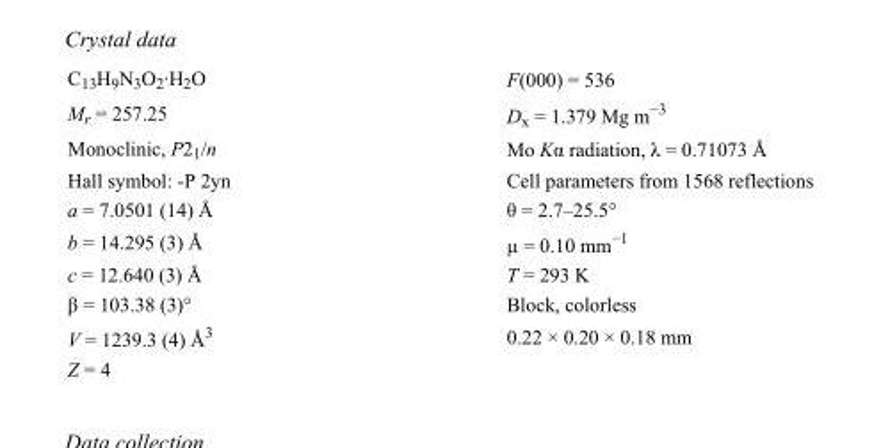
<table><tbody><tr><td>C<sub>13</sub>H<sub>9</sub>N<sub>3</sub>O<sub>2</sub>·H<sub>2</sub>O</td><td>F(000) = 536</td></tr><tr><td>M<sub>r</sub> = 257.25</td><td>D<sub>x</sub> = 1.379 Mg m<sup>−3</sup></td></tr><tr><td>Monoclinic, P2<sub>1</sub>/n</td><td>Mo Kα radiation, λ = 0.71073 Å</td></tr><tr><td>Hall symbol: -P 2yn</td><td>Cell parameters from 1568 reflections</td></tr><tr><td>a = 7.0501 (14) Å</td><td>θ = 2.7–25.5°</td></tr><tr><td>b = 14.295 (3) Å</td><td>µ = 0.10 mm<sup>−1</sup></td></tr><tr><td>c = 12.640 (3) Å</td><td>T = 293 K</td></tr><tr><td>β = 103.38 (3)°</td><td>Block, colorless</td></tr><tr><td>V = 1239.3 (4) Å<sup>3</sup></td><td>0.22 × 0.20 × 0.18 mm</td></tr><tr><td>Z = 4</td><td></td></tr></tbody></table>